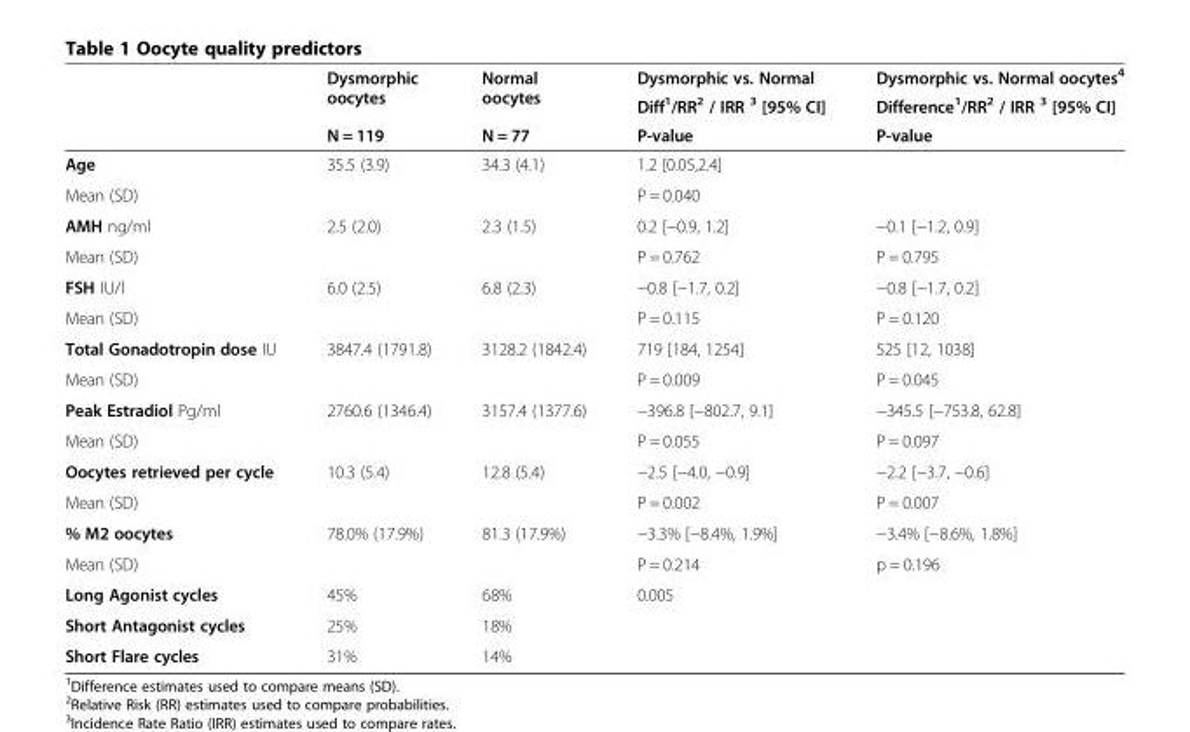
<table><thead><tr><td rowspan="3"></td><td rowspan="3">Dysmorphic oocytes N = 119</td><td rowspan="3">Normal oocytes N = 77</td><td rowspan="3">Dysmorphic vs. Normal Diff<sup>1</sup>/RR<sup>2</sup> / IRR <sup>3</sup> [95% CI] P-value</td><td rowspan="3">Dysmorphic vs. Normal oocytes<sup>4</sup> Difference<sup>1</sup>/RR<sup>2</sup> / IRR <sup>3</sup> [95% CI] P-value</td></tr><tr></tr><tr></tr></thead><tbody><tr><td>Age</td><td>35.5 (3.9)</td><td>34.3 (4.1)</td><td>1.2 [0.05,2.4]</td><td></td></tr><tr><td>Mean (SD)</td><td></td><td></td><td>P = 0.040</td><td></td></tr><tr><td>AMH ng/ml</td><td>2.5 (2.0)</td><td>2.3 (1.5)</td><td>0.2 [−0.9, 1.2]</td><td>−0.1 [−1.2, 0.9]</td></tr><tr><td>Mean (SD)</td><td></td><td></td><td>P = 0.762</td><td>P = 0.795</td></tr><tr><td>FSH IU/l</td><td>6.0 (2.5)</td><td>6.8 (2.3)</td><td>−0.8 [−1.7, 0.2]</td><td>−0.8 [−1.7, 0.2]</td></tr><tr><td>Mean (SD)</td><td></td><td></td><td>P = 0.115</td><td>P = 0.120</td></tr><tr><td>Total Gonadotropin dose IU</td><td>3847.4 (1791.8)</td><td>3128.2 (1842.4)</td><td>719 [184, 1254]</td><td>525 [12, 1038]</td></tr><tr><td>Mean (SD)</td><td></td><td></td><td>P = 0.009</td><td>P = 0.045</td></tr><tr><td>Peak Estradiol Pg/ml</td><td>2760.6 (1346.4)</td><td>3157.4 (1377.6)</td><td>−396.8 [−802.7, 9.1]</td><td>−345.5 [−753.8, 62.8]</td></tr><tr><td>Mean (SD)</td><td></td><td></td><td>P = 0.055</td><td>P = 0.097</td></tr><tr><td>Oocytes retrieved per cycle</td><td>10.3 (5.4)</td><td>12.8 (5.4)</td><td>−2.5 [−4.0, −0.9]</td><td>−2.2 [−3.7, −0.6]</td></tr><tr><td>Mean (SD)</td><td></td><td></td><td>P = 0.002</td><td>P = 0.007</td></tr><tr><td>% M2 oocytes</td><td>78.0% (17.9%)</td><td>81.3 (17.9%)</td><td>−3.3% [−8.4%, 1.9%]</td><td>−3.4% [−8.6%, 1.8%]</td></tr><tr><td>Mean (SD)</td><td></td><td></td><td>P = 0.214</td><td>p = 0.196</td></tr><tr><td>Long Agonist cycles</td><td>45%</td><td>68%</td><td rowspan="3">0.005</td><td></td></tr><tr><td>Short Antagonist cycles</td><td>25%</td><td>18%</td><td></td></tr><tr><td>Short Flare cycles</td><td>31%</td><td>14%</td><td></td></tr></tbody></table>